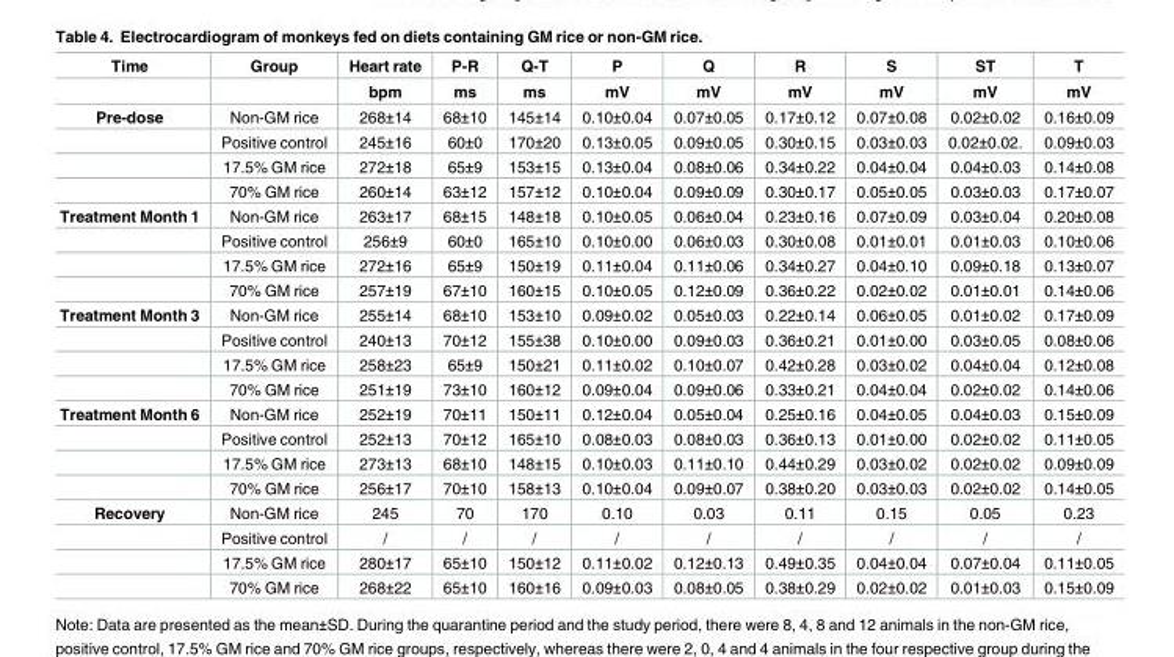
<table><thead><tr><td rowspan="2">Time</td><td rowspan="2">Group</td><td rowspan="2">Heart rate bpm</td><td rowspan="2">P-R ms</td><td rowspan="2">Q-T ms</td><td rowspan="2">P mV</td><td rowspan="2">Q mV</td><td rowspan="2">R mV</td><td rowspan="2">S mV</td><td rowspan="2">ST mV</td><td rowspan="2">T mV</td></tr><tr></tr></thead><tbody><tr><td rowspan="4">Pre-dose</td><td>Non-GM rice</td><td>268±14</td><td>68±10</td><td>145±14</td><td>0.10±0.04</td><td>0.07±0.05</td><td>0.17±0.12</td><td>0.07±0.08</td><td>0.02±0.02</td><td>0.16±0.09</td></tr><tr><td>Positive control</td><td>245±16</td><td>60±0</td><td>170±20</td><td>0.13±0.05</td><td>0.09±0.05</td><td>0.30±0.15</td><td>0.03±0.03</td><td>0.02±0.02.</td><td>0.09±0.03</td></tr><tr><td>17.5% GM rice</td><td>272±18</td><td>65±9</td><td>153±15</td><td>0.13±0.04</td><td>0.08±0.06</td><td>0.34±0.22</td><td>0.04±0.04</td><td>0.04±0.03</td><td>0.14±0.08</td></tr><tr><td>70% GM rice</td><td>260±14</td><td>63±12</td><td>157±12</td><td>0.10±0.04</td><td>0.09±0.09</td><td>0.30±0.17</td><td>0.05±0.05</td><td>0.03±0.03</td><td>0.17±0.07</td></tr><tr><td rowspan="4">Treatment Month 1</td><td>Non-GM rice</td><td>263±17</td><td>68±15</td><td>148±18</td><td>0.10±0.05</td><td>0.06±0.04</td><td>0.23±0.16</td><td>0.07±0.09</td><td>0.03±0.04</td><td>0.20±0.08</td></tr><tr><td>Positive control</td><td>256±9</td><td>60±0</td><td>165±10</td><td>0.10±0.00</td><td>0.06±0.03</td><td>0.30±0.08</td><td>0.01±0.01</td><td>0.01±0.03</td><td>0.10±0.06</td></tr><tr><td>17.5% GM rice</td><td>272±16</td><td>65±9</td><td>150±19</td><td>0.11±0.04</td><td>0.11±0.06</td><td>0.34±0.27</td><td>0.04±0.10</td><td>0.09±0.18</td><td>0.13±0.07</td></tr><tr><td>70% GM rice</td><td>257±19</td><td>67±10</td><td>160±15</td><td>0.10±0.05</td><td>0.12±0.09</td><td>0.36±0.22</td><td>0.02±0.02</td><td>0.01±0.01</td><td>0.14±0.06</td></tr><tr><td rowspan="4">Treatment Month 3</td><td>Non-GM rice</td><td>255±14</td><td>68±10</td><td>153±10</td><td>0.09±0.02</td><td>0.05±0.03</td><td>0.22±0.14</td><td>0.06±0.05</td><td>0.01±0.02</td><td>0.17±0.09</td></tr><tr><td>Positive control</td><td>240±13</td><td>70±12</td><td>155±38</td><td>0.10±0.00</td><td>0.09±0.03</td><td>0.36±0.21</td><td>0.01±0.00</td><td>0.03±0.05</td><td>0.08±0.06</td></tr><tr><td>17.5% GM rice</td><td>258±23</td><td>65±9</td><td>150±21</td><td>0.11±0.02</td><td>0.10±0.07</td><td>0.42±0.28</td><td>0.03±0.02</td><td>0.04±0.04</td><td>0.12±0.08</td></tr><tr><td>70% GM rice</td><td>251±19</td><td>73±10</td><td>160±12</td><td>0.09±0.04</td><td>0.09±0.06</td><td>0.33±0.21</td><td>0.04±0.04</td><td>0.02±0.02</td><td>0.14±0.06</td></tr><tr><td rowspan="4">Treatment Month 6</td><td>Non-GM rice</td><td>252±19</td><td>70±11</td><td>150±11</td><td>0.12±0.04</td><td>0.05±0.04</td><td>0.25±0.16</td><td>0.04±0.05</td><td>0.04±0.03</td><td>0.15±0.09</td></tr><tr><td>Positive control</td><td>252±13</td><td>70±12</td><td>165±10</td><td>0.08±0.03</td><td>0.08±0.03</td><td>0.36±0.13</td><td>0.01±0.00</td><td>0.02±0.02</td><td>0.11±0.05</td></tr><tr><td>17.5% GM rice</td><td>273±13</td><td>68±10</td><td>148±15</td><td>0.10±0.03</td><td>0.11±0.10</td><td>0.44±0.29</td><td>0.03±0.02</td><td>0.02±0.02</td><td>0.09±0.09</td></tr><tr><td>70% GM rice</td><td>256±17</td><td>70±10</td><td>158±13</td><td>0.10±0.04</td><td>0.09±0.07</td><td>0.38±0.20</td><td>0.03±0.03</td><td>0.02±0.02</td><td>0.14±0.05</td></tr><tr><td rowspan="4">Recovery</td><td>Non-GM rice</td><td>245</td><td>70</td><td>170</td><td>0.10</td><td>0.03</td><td>0.11</td><td>0.15</td><td>0.05</td><td>0.23</td></tr><tr><td>Positive control</td><td>/</td><td>/</td><td>/</td><td>/</td><td>/</td><td>/</td><td>/</td><td>/</td><td>/</td></tr><tr><td>17.5% GM rice</td><td>280±17</td><td>65±10</td><td>150±12</td><td>0.11±0.02</td><td>0.12±0.13</td><td>0.49±0.35</td><td>0.04±0.04</td><td>0.07±0.04</td><td>0.11±0.05</td></tr><tr><td>70% GM rice</td><td>268±22</td><td>65±10</td><td>160±16</td><td>0.09±0.03</td><td>0.08±0.05</td><td>0.38±0.29</td><td>0.02±0.02</td><td>0.01±0.03</td><td>0.15±0.09</td></tr></tbody></table>